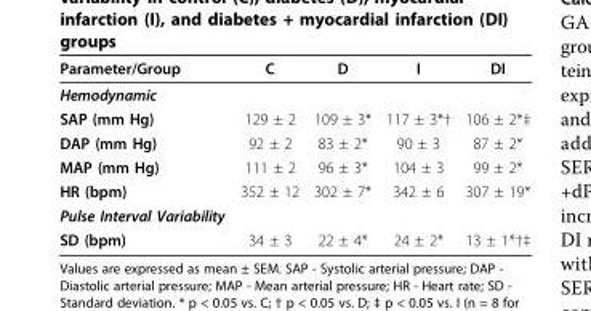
<table><thead><tr><td>Parameter/Group</td><td>C</td><td>D</td><td>I</td><td>DI</td></tr></thead><tbody><tr><td colspan="5">Hemodynamic</td></tr><tr><td>SAP (mm Hg)</td><td>129 ± 2</td><td>109 ± 3*</td><td>117 ± 3*†</td><td>106 ± 2*‡</td></tr><tr><td>DAP (mm Hg)</td><td>92 ± 2</td><td>83 ± 2*</td><td>90 ± 3</td><td>87 ± 2*</td></tr><tr><td>MAP (mm Hg)</td><td>111 ± 2</td><td>96 ± 3*</td><td>104 ± 3</td><td>99 ± 2*</td></tr><tr><td>HR (bpm)</td><td>352 ± 12</td><td>302 ± 7*</td><td>342 ± 6</td><td>307 ± 19*</td></tr><tr><td colspan="5">Pulse Interval Variability</td></tr><tr><td>SD (bpm)</td><td>34 ± 3</td><td>22 ± 4*</td><td>24 ± 2*</td><td>13 ± 1*†‡</td></tr></tbody></table>